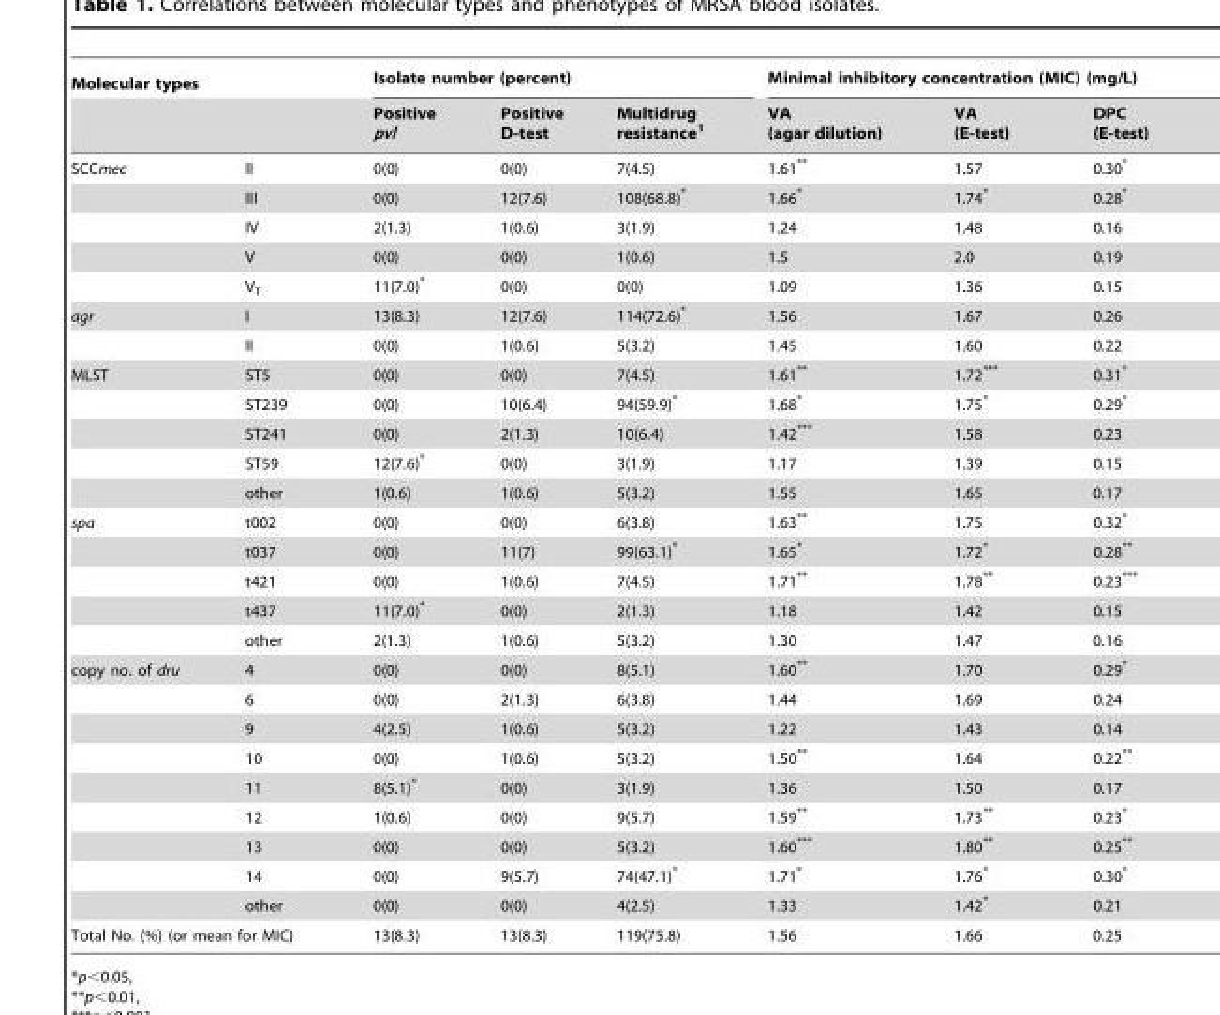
<table><thead><tr><td colspan="2">Molecular types</td><td colspan="3">Isolate number (percent)</td><td colspan="3">Minimal inhibitory concentration (MIC) (mg/L)</td></tr><tr><td></td><td></td><td>Positive pvl</td><td>Positive D-test</td><td>Multidrug resistance<sup>1</sup></td><td>VA (agar dilution)</td><td>VA (E-test)</td><td>DPC (E-test)</td></tr></thead><tbody><tr><td rowspan="5">SCCmec</td><td>II</td><td>0(0)</td><td>0(0)</td><td>7(4.5)</td><td>1.61**</td><td>1.57</td><td>0.30*</td></tr><tr><td>III</td><td>0(0)</td><td>12(7.6)</td><td>108(68.8)*</td><td>1.66*</td><td>1.74*</td><td>0.28*</td></tr><tr><td>IV</td><td>2(1.3)</td><td>1(0.6)</td><td>3(1.9)</td><td>1.24</td><td>1.48</td><td>0.16</td></tr><tr><td>V</td><td>0(0)</td><td>0(0)</td><td>1(0.6)</td><td>1.5</td><td>2.0</td><td>0.19</td></tr><tr><td>V<sub>T</sub></td><td>11(7.0)*</td><td>0(0)</td><td>0(0)</td><td>1.09</td><td>1.36</td><td>0.15</td></tr><tr><td rowspan="2">agr</td><td>I</td><td>13(8.3)</td><td>12(7.6)</td><td>114(72.6)*</td><td>1.56</td><td>1.67</td><td>0.26</td></tr><tr><td>II</td><td>0(0)</td><td>1(0.6)</td><td>5(3.2)</td><td>1.45</td><td>1.60</td><td>0.22</td></tr><tr><td rowspan="5">MLST</td><td>ST5</td><td>0(0)</td><td>0(0)</td><td>7(4.5)</td><td>1.61**</td><td>1.72***</td><td>0.31*</td></tr><tr><td>ST239</td><td>0(0)</td><td>10(6.4)</td><td>94(59.9)*</td><td>1.68*</td><td>1.75*</td><td>0.29*</td></tr><tr><td>ST241</td><td>0(0)</td><td>2(1.3)</td><td>10(6.4)</td><td>1.42***</td><td>1.58</td><td>0.23</td></tr><tr><td>ST59</td><td>12(7.6)*</td><td>0(0)</td><td>3(1.9)</td><td>1.17</td><td>1.39</td><td>0.15</td></tr><tr><td>other</td><td>1(0.6)</td><td>1(0.6)</td><td>5(3.2)</td><td>1.55</td><td>1.65</td><td>0.17</td></tr><tr><td rowspan="5">spa</td><td>t002</td><td>0(0)</td><td>0(0)</td><td>6(3.8)</td><td>1.63**</td><td>1.75</td><td>0.32*</td></tr><tr><td>t037</td><td>0(0)</td><td>11(7)</td><td>99(63.1)*</td><td>1.65*</td><td>1.72*</td><td>0.28**</td></tr><tr><td>t421</td><td>0(0)</td><td>1(0.6)</td><td>7(4.5)</td><td>1.71**</td><td>1.78**</td><td>0.23***</td></tr><tr><td>t437</td><td>11(7.0)*</td><td>0(0)</td><td>2(1.3)</td><td>1.18</td><td>1.42</td><td>0.15</td></tr><tr><td>other</td><td>2(1.3)</td><td>1(0.6)</td><td>5(3.2)</td><td>1.30</td><td>1.47</td><td>0.16</td></tr><tr><td rowspan="9">copy no. of dru</td><td>4</td><td>0(0)</td><td>0(0)</td><td>8(5.1)</td><td>1.60**</td><td>1.70</td><td>0.29*</td></tr><tr><td>6</td><td>0(0)</td><td>2(1.3)</td><td>6(3.8)</td><td>1.44</td><td>1.69</td><td>0.24</td></tr><tr><td>9</td><td>4(2.5)</td><td>1(0.6)</td><td>5(3.2)</td><td>1.22</td><td>1.43</td><td>0.14</td></tr><tr><td>10</td><td>0(0)</td><td>1(0.6)</td><td>5(3.2)</td><td>1.50**</td><td>1.64</td><td>0.22**</td></tr><tr><td>11</td><td>8(5.1)*</td><td>0(0)</td><td>3(1.9)</td><td>1.36</td><td>1.50</td><td>0.17</td></tr><tr><td>12</td><td>1(0.6)</td><td>0(0)</td><td>9(5.7)</td><td>1.59**</td><td>1.73**</td><td>0.23*</td></tr><tr><td>13</td><td>0(0)</td><td>0(0)</td><td>5(3.2)</td><td>1.60***</td><td>1.80**</td><td>0.25**</td></tr><tr><td>14</td><td>0(0)</td><td>9(5.7)</td><td>74(47.1)*</td><td>1.71*</td><td>1.76*</td><td>0.30*</td></tr><tr><td>other</td><td>0(0)</td><td>0(0)</td><td>4(2.5)</td><td>1.33</td><td>1.42*</td><td>0.21</td></tr><tr><td colspan="2">Total No. (%) (or mean for MIC)</td><td>13(8.3)</td><td>13(8.3)</td><td>119(75.8)</td><td>1.56</td><td>1.66</td><td>0.25</td></tr></tbody></table>